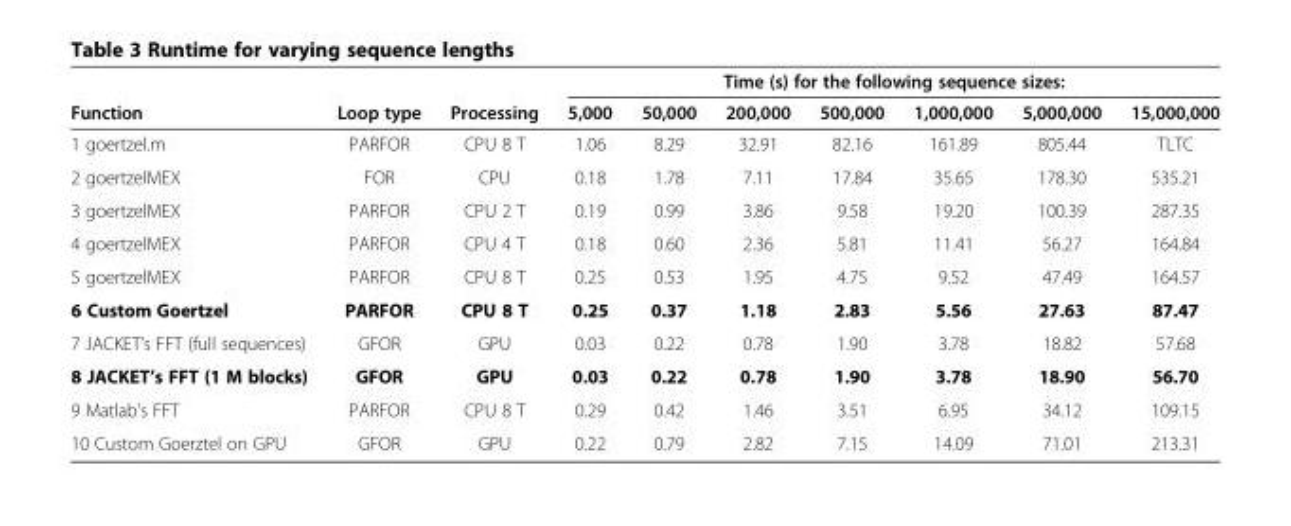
<table><thead><tr><td rowspan="2">Function</td><td rowspan="2">Loop type</td><td rowspan="2">Processing</td><td colspan="7">Time (s) for the following sequence sizes:</td></tr><tr><td>5,000</td><td>50,000</td><td>200,000</td><td>500,000</td><td>1,000,000</td><td>5,000,000</td><td>15,000,000</td></tr></thead><tbody><tr><td>1 goertzel.m</td><td>PARFOR</td><td>CPU 8 T</td><td>1.06</td><td>8.29</td><td>32.91</td><td>82.16</td><td>161.89</td><td>805.44</td><td>TLTC</td></tr><tr><td>2 goertzelMEX</td><td>FOR</td><td>CPU</td><td>0.18</td><td>1.78</td><td>7.11</td><td>17.84</td><td>35.65</td><td>178.30</td><td>535.21</td></tr><tr><td>3 goertzelMEX</td><td>PARFOR</td><td>CPU 2 T</td><td>0.19</td><td>0.99</td><td>3.86</td><td>9.58</td><td>19.20</td><td>100.39</td><td>287.35</td></tr><tr><td>4 goertzelMEX</td><td>PARFOR</td><td>CPU 4 T</td><td>0.18</td><td>0.60</td><td>2.36</td><td>5.81</td><td>11.41</td><td>56.27</td><td>164.84</td></tr><tr><td>5 goertzelMEX</td><td>PARFOR</td><td>CPU 8 T</td><td>0.25</td><td>0.53</td><td>1.95</td><td>4.75</td><td>9.52</td><td>47.49</td><td>164.57</td></tr><tr><td>6 Custom Goertzel</td><td>PARFOR</td><td>CPU 8 T</td><td>0.25</td><td>0.37</td><td>1.18</td><td>2.83</td><td>5.56</td><td>27.63</td><td>87.47</td></tr><tr><td>7 JACKET’s FFT (full sequences)</td><td>GFOR</td><td>GPU</td><td>0.03</td><td>0.22</td><td>0.78</td><td>1.90</td><td>3.78</td><td>18.82</td><td>57.68</td></tr><tr><td>8 JACKET’s FFT (1 M blocks)</td><td>GFOR</td><td>GPU</td><td>0.03</td><td>0.22</td><td>0.78</td><td>1.90</td><td>3.78</td><td>18.90</td><td>56.70</td></tr><tr><td>9 Matlab’s FFT</td><td>PARFOR</td><td>CPU 8 T</td><td>0.29</td><td>0.42</td><td>1.46</td><td>3.51</td><td>6.95</td><td>34.12</td><td>109.15</td></tr><tr><td>10 Custom Goerztel on GPU</td><td>GFOR</td><td>GPU</td><td>0.22</td><td>0.79</td><td>2.82</td><td>7.15</td><td>14.09</td><td>71.01</td><td>213.31</td></tr></tbody></table>